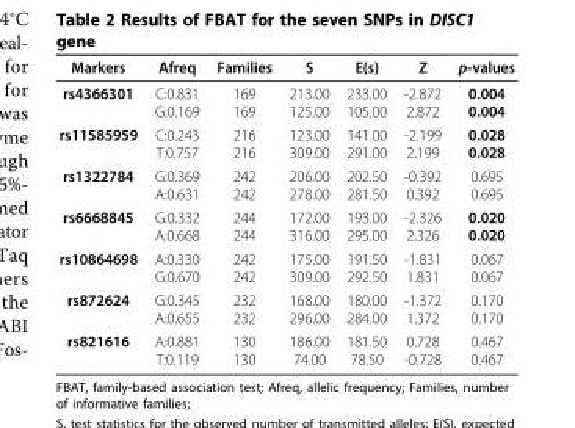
<table><thead><tr><td>Markers</td><td>Afreq</td><td>Families</td><td>S</td><td>E(s)</td><td>Z</td><td>p-values</td></tr></thead><tbody><tr><td>rs4366301</td><td>C:0.831 G:0.169</td><td>169 169</td><td>213.00 125.00</td><td>233.00 105.00</td><td>-2.872 2.872</td><td>0.004 0.004</td></tr><tr><td>rs11585959</td><td>C:0.243 T:0.757</td><td>216 216</td><td>123.00 309.00</td><td>141.00 291.00</td><td>-2.199 2.199</td><td>0.028 0.028</td></tr><tr><td>rs1322784</td><td>G:0.369 A:0.631</td><td>242 242</td><td>206.00 278.00</td><td>202.50 281.50</td><td>-0.392 0.392</td><td>0.695 0.695</td></tr><tr><td>rs6668845</td><td>G:0.332 A:0.668</td><td>244 244</td><td>172.00 316.00</td><td>193.00 295.00</td><td>-2.326 2.326</td><td>0.020 0.020</td></tr><tr><td>rs10864698</td><td>A:0.330 G:0.670</td><td>242 242</td><td>175.00 309.00</td><td>191.50 292.50</td><td>-1.831 1.831</td><td>0.067 0.067</td></tr><tr><td>rs872624</td><td>G:0.345 A:0.655</td><td>232 232</td><td>168.00 296.00</td><td>180.00 284.00</td><td>-1.372 1.372</td><td>0.170 0.170</td></tr><tr><td>rs821616</td><td>A:0.881 T:0.119</td><td>130 130</td><td>186.00 74.00</td><td>181.50 78.50</td><td>0.728 -0.728</td><td>0.467 0.467</td></tr></tbody></table>